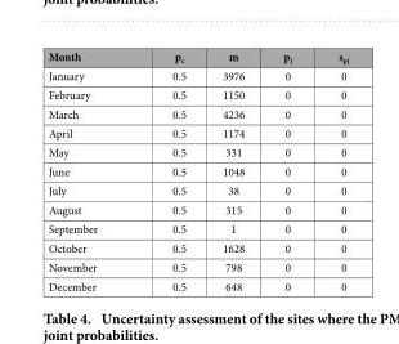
<table><thead><tr><td>Month</td><td>p<sub>c</sub></td><td>m</td><td>p<sub>j</sub></td><td>s<sub>pj</sub></td></tr></thead><tbody><tr><td>January</td><td>0.5</td><td>3976</td><td>0</td><td>0</td></tr><tr><td>February</td><td>0.5</td><td>1150</td><td>0</td><td>0</td></tr><tr><td>March</td><td>0.5</td><td>4236</td><td>0</td><td>0</td></tr><tr><td>April</td><td>0.5</td><td>1174</td><td>0</td><td>0</td></tr><tr><td>May</td><td>0.5</td><td>331</td><td>0</td><td>0</td></tr><tr><td>June</td><td>0.5</td><td>1048</td><td>0</td><td>0</td></tr><tr><td>July</td><td>0.5</td><td>38</td><td>0</td><td>0</td></tr><tr><td>August</td><td>0.5</td><td>315</td><td>0</td><td>0</td></tr><tr><td>September</td><td>0.5</td><td>1</td><td>0</td><td>0</td></tr><tr><td>October</td><td>0.5</td><td>1628</td><td>0</td><td>0</td></tr><tr><td>November</td><td>0.5</td><td>798</td><td>0</td><td>0</td></tr><tr><td>December</td><td>0.5</td><td>648</td><td>0</td><td>0</td></tr></tbody></table>